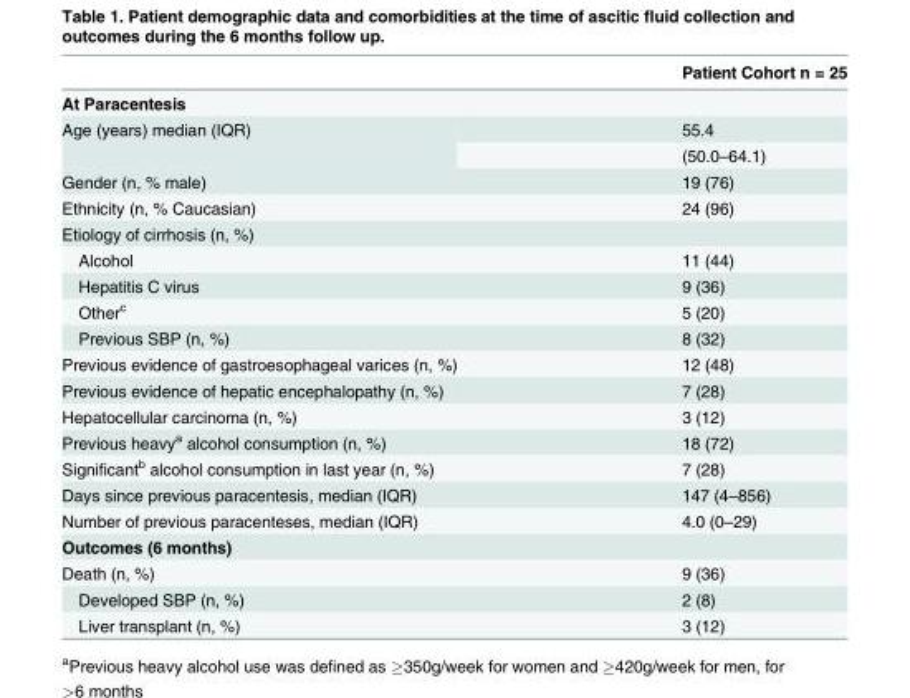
<table><thead><tr><td></td><td>Patient Cohort n = 25</td></tr></thead><tbody><tr><td colspan="2">At Paracentesis</td></tr><tr><td rowspan="2">Age (years) median (IQR)</td><td>55.4</td></tr><tr><td>(50.0–64.1)</td></tr><tr><td>Gender (n, % male)</td><td>19 (76)</td></tr><tr><td>Ethnicity (n, % Caucasian)</td><td>24 (96)</td></tr><tr><td colspan="2">Etiology of cirrhosis (n, %)</td></tr><tr><td>Alcohol</td><td>11 (44)</td></tr><tr><td>Hepatitis C virus</td><td>9 (36)</td></tr><tr><td>Other<sup>c</sup></td><td>5 (20)</td></tr><tr><td>Previous SBP (n, %)</td><td>8 (32)</td></tr><tr><td>Previous evidence of gastroesophageal varices (n, %)</td><td>12 (48)</td></tr><tr><td>Previous evidence of hepatic encephalopathy (n, %)</td><td>7 (28)</td></tr><tr><td>Hepatocellular carcinoma (n, %)</td><td>3 (12)</td></tr><tr><td>Previous heavy<sup>a</sup> alcohol consumption (n, %)</td><td>18 (72)</td></tr><tr><td>Significant<sup>b</sup> alcohol consumption in last year (n, %)</td><td>7 (28)</td></tr><tr><td>Days since previous paracentesis, median (IQR)</td><td>147 (4–856)</td></tr><tr><td>Number of previous paracenteses, median (IQR)</td><td>4.0 (0–29)</td></tr><tr><td colspan="2">Outcomes (6 months)</td></tr><tr><td>Death (n, %)</td><td>9 (36)</td></tr><tr><td>Developed SBP (n, %)</td><td>2 (8)</td></tr><tr><td>Liver transplant (n, %)</td><td>3 (12)</td></tr></tbody></table>